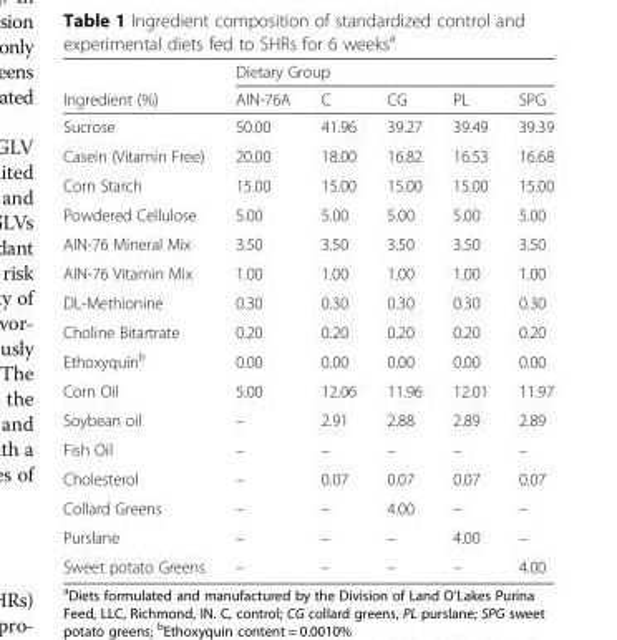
<table><thead><tr><td rowspan="2">Ingredient (%)</td><td colspan="5">Dietary Group</td></tr><tr><td>AIN-76A</td><td>C</td><td>CG</td><td>PL</td><td>SPG</td></tr></thead><tbody><tr><td>Sucrose</td><td>50.00</td><td>41.96</td><td>39.27</td><td>39.49</td><td>39.39</td></tr><tr><td>Casein (Vitamin Free)</td><td>20.00</td><td>18.00</td><td>16.82</td><td>16.53</td><td>16.68</td></tr><tr><td>Corn Starch</td><td>15.00</td><td>15.00</td><td>15.00</td><td>15.00</td><td>15.00</td></tr><tr><td>Powdered Cellulose</td><td>5.00</td><td>5.00</td><td>5.00</td><td>5.00</td><td>5.00</td></tr><tr><td>AIN-76 Mineral Mix</td><td>3.50</td><td>3.50</td><td>3.50</td><td>3.50</td><td>3.50</td></tr><tr><td>AIN-76 Vitamin Mix</td><td>1.00</td><td>1.00</td><td>1.00</td><td>1.00</td><td>1.00</td></tr><tr><td>DL-Methionine</td><td>0.30</td><td>0.30</td><td>0.30</td><td>0.30</td><td>0.30</td></tr><tr><td>Choline Bitartrate</td><td>0.20</td><td>0.20</td><td>0.20</td><td>0.20</td><td>0.20</td></tr><tr><td>Ethoxyquin<sup>b</sup></td><td>0.00</td><td>0.00</td><td>0.00</td><td>0.00</td><td>0.00</td></tr><tr><td>Corn Oil</td><td>5.00</td><td>12.06</td><td>11.96</td><td>12.01</td><td>11.97</td></tr><tr><td>Soybean oil</td><td>–</td><td>2.91</td><td>2.88</td><td>2.89</td><td>2.89</td></tr><tr><td>Fish Oil</td><td>–</td><td>–</td><td>–</td><td>–</td><td>–</td></tr><tr><td>Cholesterol</td><td>–</td><td>0.07</td><td>0.07</td><td>0.07</td><td>0.07</td></tr><tr><td>Collard Greens</td><td>–</td><td>–</td><td>4.00</td><td>–</td><td>–</td></tr><tr><td>Purslane</td><td>–</td><td>–</td><td>–</td><td>4.00</td><td>–</td></tr><tr><td>Sweet potato Greens</td><td>–</td><td>–</td><td>–</td><td>–</td><td>4.00</td></tr></tbody></table>